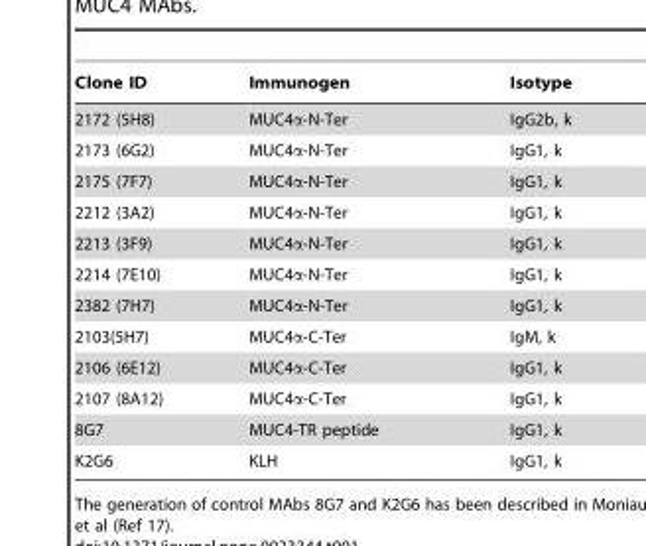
<table><thead><tr><td>Clone ID</td><td>Immunogen</td><td>Isotype</td></tr></thead><tbody><tr><td>2172 (5H8)</td><td>MUC4α-N-Ter</td><td>IgG2b, k</td></tr><tr><td>2173 (6G2)</td><td>MUC4α-N-Ter</td><td>IgG1, k</td></tr><tr><td>2175 (7F7)</td><td>MUC4α-N-Ter</td><td>IgG1, k</td></tr><tr><td>2212 (3A2)</td><td>MUC4α-N-Ter</td><td>IgG1, k</td></tr><tr><td>2213 (3F9)</td><td>MUC4α-N-Ter</td><td>IgG1, k</td></tr><tr><td>2214 (7E10)</td><td>MUC4α-N-Ter</td><td>IgG1, k</td></tr><tr><td>2382 (7H7)</td><td>MUC4α-N-Ter</td><td>IgG1, k</td></tr><tr><td>2103(5H7)</td><td>MUC4α-C-Ter</td><td>IgM, k</td></tr><tr><td>2106 (6E12)</td><td>MUC4α-C-Ter</td><td>IgG1, k</td></tr><tr><td>2107 (8A12)</td><td>MUC4α-C-Ter</td><td>IgG1, k</td></tr><tr><td>8G7</td><td>MUC4-TR peptide</td><td>IgG1, k</td></tr><tr><td>K2G6</td><td>KLH</td><td>IgG1, k</td></tr></tbody></table>